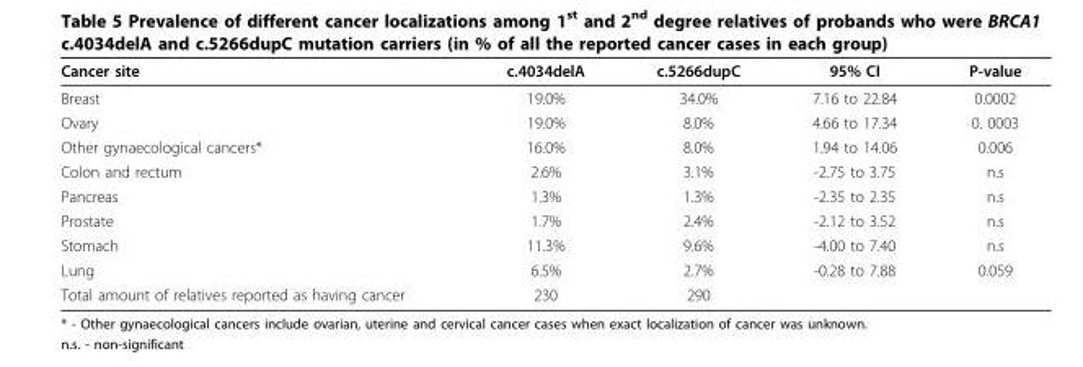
<table><thead><tr><td>Cancer site</td><td>c.4034delA</td><td>c.5266dupC</td><td>95% CI</td><td>P-value</td></tr></thead><tbody><tr><td>Breast</td><td>19.0%</td><td>34.0%</td><td>7.16 to 22.84</td><td>0.0002</td></tr><tr><td>Ovary</td><td>19.0%</td><td>8.0%</td><td>4.66 to 17.34</td><td>0. 0003</td></tr><tr><td>Other gynaecological cancers*</td><td>16.0%</td><td>8.0%</td><td>1.94 to 14.06</td><td>0.006</td></tr><tr><td>Colon and rectum</td><td>2.6%</td><td>3.1%</td><td>-2.75 to 3.75</td><td>n.s</td></tr><tr><td>Pancreas</td><td>1.3%</td><td>1.3%</td><td>-2.35 to 2.35</td><td>n.s</td></tr><tr><td>Prostate</td><td>1.7%</td><td>2.4%</td><td>-2.12 to 3.52</td><td>n.s</td></tr><tr><td>Stomach</td><td>11.3%</td><td>9.6%</td><td>-4.00 to 7.40</td><td>n.s</td></tr><tr><td>Lung</td><td>6.5%</td><td>2.7%</td><td>-0.28 to 7.88</td><td>0.059</td></tr><tr><td>Total amount of relatives reported as having cancer</td><td>230</td><td>290</td><td></td><td></td></tr></tbody></table>